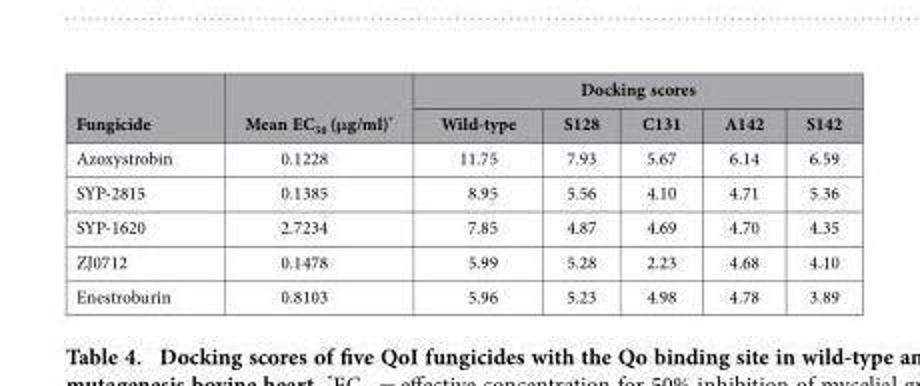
<table><thead><tr><td rowspan="2">Fungicide</td><td rowspan="2">Mean EC<sub>50</sub> (μg/ml)*</td><td colspan="5">Docking scores</td></tr><tr><td>Wild-type</td><td>S128</td><td>C131</td><td>A142</td><td>S142</td></tr></thead><tbody><tr><td>Azoxystrobin</td><td>0.1228</td><td>11.75</td><td>7.93</td><td>5.67</td><td>6.14</td><td>6.59</td></tr><tr><td>SYP-2815</td><td>0.1385</td><td>8.95</td><td>5.56</td><td>4.10</td><td>4.71</td><td>5.36</td></tr><tr><td>SYP-1620</td><td>2.7234</td><td>7.85</td><td>4.87</td><td>4.69</td><td>4.70</td><td>4.35</td></tr><tr><td>ZJ0712</td><td>0.1478</td><td>5.99</td><td>5.28</td><td>2.23</td><td>4.68</td><td>4.10</td></tr><tr><td>Enestroburin</td><td>0.8103</td><td>5.96</td><td>5.23</td><td>4.98</td><td>4.78</td><td>3.89</td></tr></tbody></table>